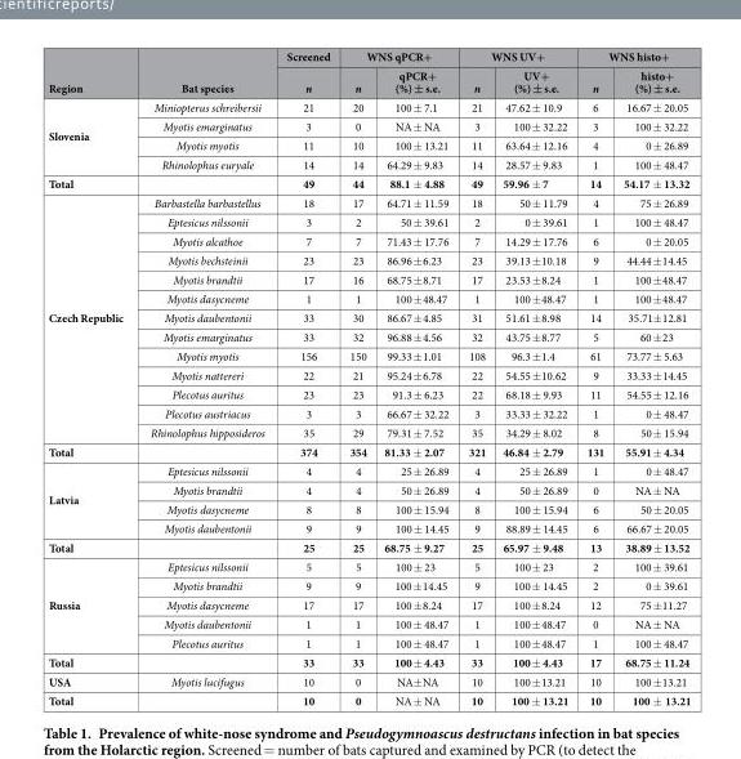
<table><thead><tr><td rowspan="2">Region</td><td rowspan="2">Bat species</td><td rowspan="2">Screened n</td><td colspan="2">WNS qPCR+</td><td colspan="2">WNS UV+</td><td colspan="2">WNS histo+</td></tr><tr><td>n</td><td>qPCR+ (%) ± s.e.</td><td>n</td><td>UV+ (%) ± s.e.</td><td>n</td><td>histo+ (%) ± s.e.</td></tr></thead><tbody><tr><td rowspan="4">Slovenia</td><td>Miniopterus schreibersii</td><td>21</td><td>20</td><td>100 ± 7.1</td><td>21</td><td>47.62 ± 10.9</td><td>6</td><td>16.67 ± 20.05</td></tr><tr><td>Myotis emarginatus</td><td>3</td><td>0</td><td>NA ± NA</td><td>3</td><td>100 ± 32.22</td><td>3</td><td>100 ± 32.22</td></tr><tr><td>Myotis myotis</td><td>11</td><td>10</td><td>100 ± 13.21</td><td>11</td><td>63.64 ± 12.16</td><td>4</td><td>0 ± 26.89</td></tr><tr><td>Rhinolophus euryale</td><td>14</td><td>14</td><td>64.29 ± 9.83</td><td>14</td><td>28.57 ± 9.83</td><td>1</td><td>100 ± 48.47</td></tr><tr><td>Total</td><td></td><td>49</td><td>44</td><td>88.1 ± 4.88</td><td>49</td><td>59.96 ± 7</td><td>14</td><td>54.17 ± 13.32</td></tr><tr><td rowspan="13">Czech Republic</td><td>Barbastella barbastellus</td><td>18</td><td>17</td><td>64.71 ± 11.59</td><td>18</td><td>50 ± 11.79</td><td>4</td><td>75 ± 26.89</td></tr><tr><td>Eptesicus nilssonii</td><td>3</td><td>2</td><td>50 ± 39.61</td><td>2</td><td>0 ± 39.61</td><td>1</td><td>100 ± 48.47</td></tr><tr><td>Myotis alcathoe</td><td>7</td><td>7</td><td>71.43 ± 17.76</td><td>7</td><td>14.29 ± 17.76</td><td>6</td><td>0 ± 20.05</td></tr><tr><td>Myotis bechsteinii</td><td>23</td><td>23</td><td>86.96 ± 6.23</td><td>23</td><td>39.13 ± 10.18</td><td>9</td><td>44.44 ± 14.45</td></tr><tr><td>Myotis brandtii</td><td>17</td><td>16</td><td>68.75 ± 8.71</td><td>17</td><td>23.53 ± 8.24</td><td>1</td><td>100 ± 48.47</td></tr><tr><td>Myotis dasycneme</td><td>1</td><td>1</td><td>100 ± 48.47</td><td>1</td><td>100 ± 48.47</td><td>1</td><td>100 ± 48.47</td></tr><tr><td>Myotis daubentonii</td><td>33</td><td>30</td><td>86.67 ± 4.85</td><td>31</td><td>51.61 ± 8.98</td><td>14</td><td>35.71± 12.81</td></tr><tr><td>Myotis emarginatus</td><td>33</td><td>32</td><td>96.88 ± 4.56</td><td>32</td><td>43.75 ± 8.77</td><td>5</td><td>60 ± 23</td></tr><tr><td>Myotis myotis</td><td>156</td><td>150</td><td>99.33 ± 1.01</td><td>108</td><td>96.3 ± 1.4</td><td>61</td><td>73.77 ± 5.63</td></tr><tr><td>Myotis nattereri</td><td>22</td><td>21</td><td>95.24 ± 6.78</td><td>22</td><td>54.55 ± 10.62</td><td>9</td><td>33.33 ± 14.45</td></tr><tr><td>Plecotus auritus</td><td>23</td><td>23</td><td>91.3 ± 6.23</td><td>22</td><td>68.18 ± 9.93</td><td>11</td><td>54.55 ± 12.16</td></tr><tr><td>Plecotus austriacus</td><td>3</td><td>3</td><td>66.67 ± 32.22</td><td>3</td><td>33.33 ± 32.22</td><td>1</td><td>0 ± 48.47</td></tr><tr><td>Rhinolophus hipposideros</td><td>35</td><td>29</td><td>79.31 ± 7.52</td><td>35</td><td>34.29 ± 8.02</td><td>8</td><td>50 ± 15.94</td></tr><tr><td>Total</td><td></td><td>374</td><td>354</td><td>81.33 ± 2.07</td><td>321</td><td>46.84 ± 2.79</td><td>131</td><td>55.91 ± 4.34</td></tr><tr><td rowspan="4">Latvia</td><td>Eptesicus nilssonii</td><td>4</td><td>4</td><td>25 ± 26.89</td><td>4</td><td>25 ± 26.89</td><td>1</td><td>0 ± 48.47</td></tr><tr><td>Myotis brandtii</td><td>4</td><td>4</td><td>50 ± 26.89</td><td>4</td><td>50 ± 26.89</td><td>0</td><td>NA ± NA</td></tr><tr><td>Myotis dasycneme</td><td>8</td><td>8</td><td>100 ± 15.94</td><td>8</td><td>100 ± 15.94</td><td>6</td><td>50 ± 20.05</td></tr><tr><td>Myotis daubentonii</td><td>9</td><td>9</td><td>100 ± 14.45</td><td>9</td><td>88.89 ± 14.45</td><td>6</td><td>66.67 ± 20.05</td></tr><tr><td>Total</td><td></td><td>25</td><td>25</td><td>68.75 ± 9.27</td><td>25</td><td>65.97 ± 9.48</td><td>13</td><td>38.89 ± 13.52</td></tr><tr><td rowspan="5">Russia</td><td>Eptesicus nilssonii</td><td>5</td><td>5</td><td>100 ± 23</td><td>5</td><td>100 ± 23</td><td>2</td><td>100 ± 39.61</td></tr><tr><td>Myotis brandtii</td><td>9</td><td>9</td><td>100 ± 14.45</td><td>9</td><td>100 ± 14.45</td><td>2</td><td>0 ± 39.61</td></tr><tr><td>Myotis dasycneme</td><td>17</td><td>17</td><td>100 ± 8.24</td><td>17</td><td>100 ± 8.24</td><td>12</td><td>75 ± 11.27</td></tr><tr><td>Myotis daubentonii</td><td>1</td><td>1</td><td>100 ± 48.47</td><td>1</td><td>100 ± 48.47</td><td>0</td><td>NA ± NA</td></tr><tr><td>Plecotus auritus</td><td>1</td><td>1</td><td>100 ± 48.47</td><td>1</td><td>100 ± 48.47</td><td>1</td><td>100 ± 48.47</td></tr><tr><td>Total</td><td></td><td>33</td><td>33</td><td>100 ± 4.43</td><td>33</td><td>100 ± 4.43</td><td>17</td><td>68.75 ± 11.24</td></tr><tr><td>USA</td><td>Myotis lucifugus</td><td>10</td><td>0</td><td>NA± NA</td><td>10</td><td>100 ± 13.21</td><td>10</td><td>100 ± 13.21</td></tr><tr><td>Total</td><td></td><td>10</td><td>0</td><td>NA ± NA</td><td>10</td><td>100 ± 13.21</td><td>10</td><td>100 ± 13.21</td></tr></tbody></table>